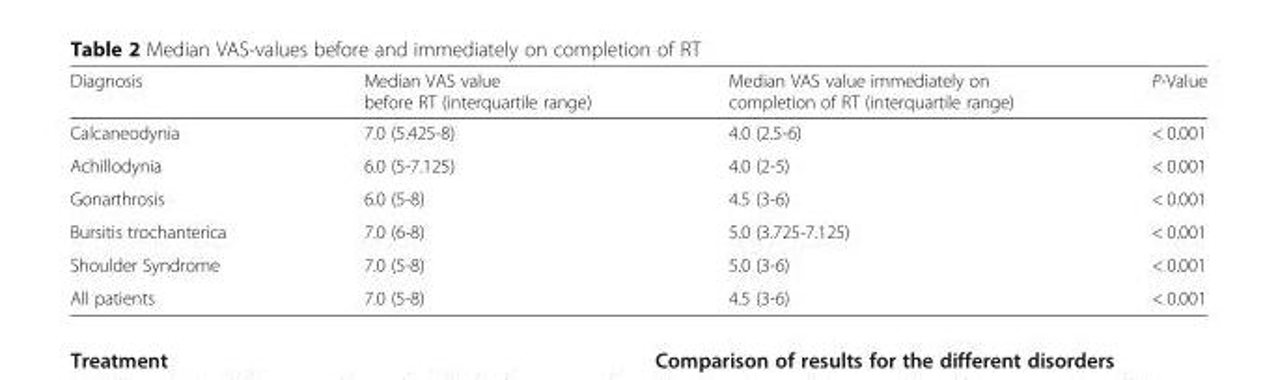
<table><thead><tr><td>Diagnosis</td><td>Median VAS value before RT (interquartile range)</td><td>Median VAS value immediately on completion of RT (interquartile range)</td><td>P-Value</td></tr></thead><tbody><tr><td>Calcaneodynia</td><td>7.0 (5.425-8)</td><td>4.0 (2.5-6)</td><td>&lt; 0.001</td></tr><tr><td>Achillodynia</td><td>6.0 (5-7.125)</td><td>4.0 (2-5)</td><td>&lt; 0.001</td></tr><tr><td>Gonarthrosis</td><td>6.0 (5-8)</td><td>4.5 (3-6)</td><td>&lt; 0.001</td></tr><tr><td>Bursitis trochanterica</td><td>7.0 (6-8)</td><td>5.0 (3.725-7.125)</td><td>&lt; 0.001</td></tr><tr><td>Shoulder Syndrome</td><td>7.0 (5-8)</td><td>5.0 (3-6)</td><td>&lt; 0.001</td></tr><tr><td>All patients</td><td>7.0 (5-8)</td><td>4.5 (3-6)</td><td>&lt; 0.001</td></tr></tbody></table>